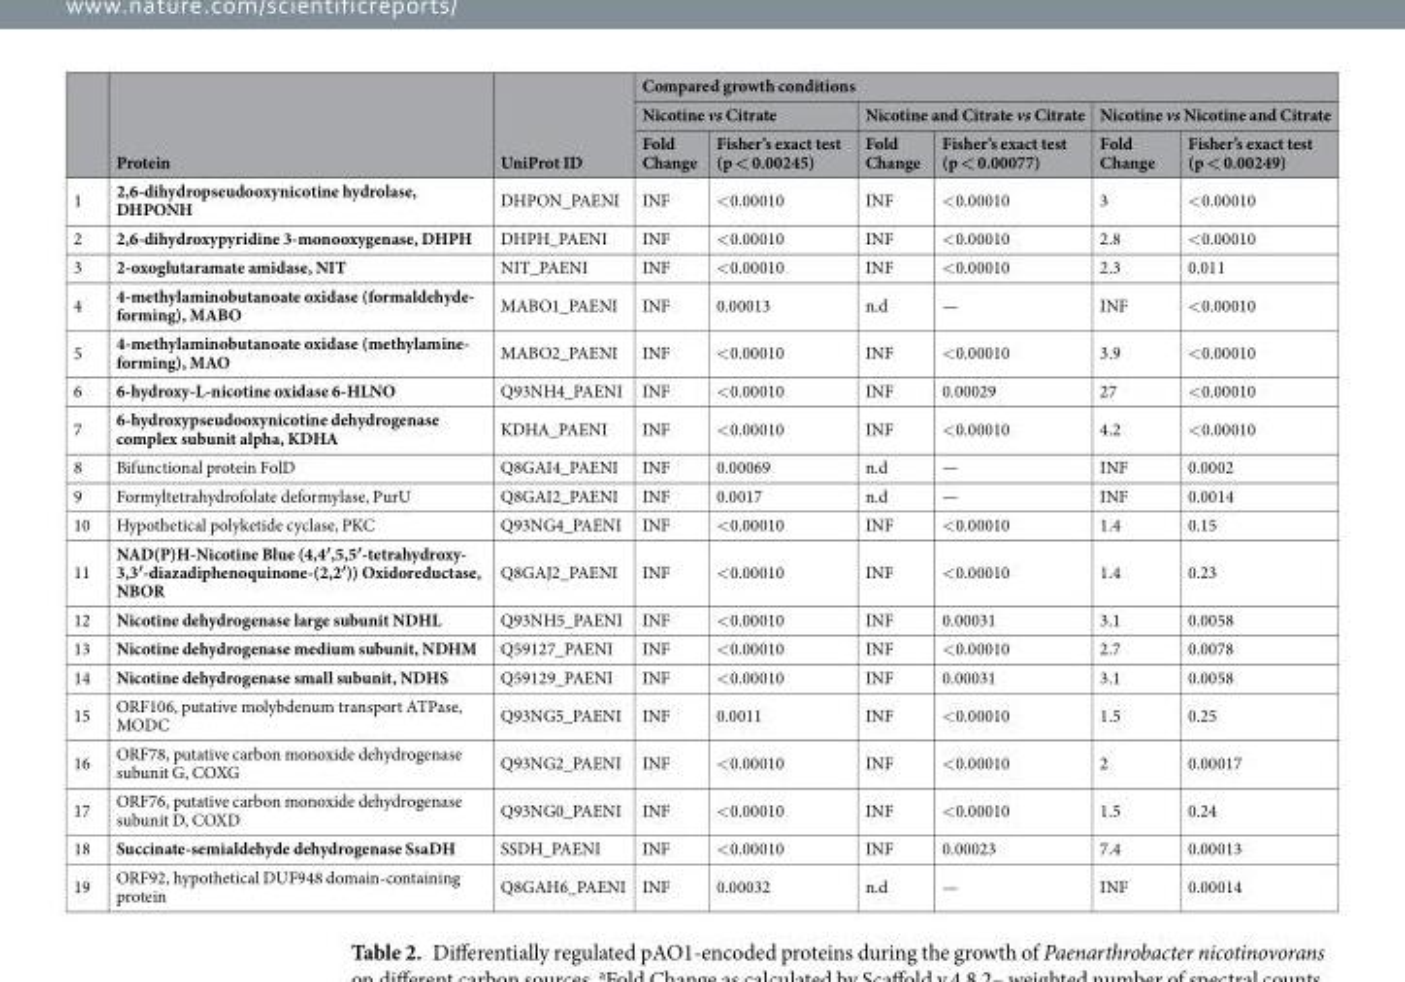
<table><thead><tr><td rowspan="3"></td><td rowspan="3">Protein</td><td rowspan="3">UniProt ID</td><td colspan="6">Compared growth conditions</td></tr><tr><td colspan="2">Nicotine vs Citrate</td><td colspan="2">Nicotine and Citrate vs Citrate</td><td colspan="2">Nicotine vs Nicotine and Citrate</td></tr><tr><td>Fold Change</td><td>Fisher’s exact test (p &lt; 0.00245)</td><td>Fold Change</td><td>Fisher’s exact test (p &lt; 0.00077)</td><td>Fold Change</td><td>Fisher’s exact test (p &lt; 0.00249)</td></tr></thead><tbody><tr><td>1</td><td>2,6-dihydropseudooxynicotine hydrolase, DHPONH</td><td>DHPON_PAENI</td><td>INF</td><td>&lt;0.00010</td><td>INF</td><td>&lt;0.00010</td><td>3</td><td>&lt;0.00010</td></tr><tr><td>2</td><td>2,6-dihydroxypyridine 3-monooxygenase, DHPH</td><td>DHPH_PAENI</td><td>INF</td><td>&lt;0.00010</td><td>INF</td><td>&lt;0.00010</td><td>2.8</td><td>&lt;0.00010</td></tr><tr><td>3</td><td>2-oxoglutaramate amidase, NIT</td><td>NIT_PAENI</td><td>INF</td><td>&lt;0.00010</td><td>INF</td><td>&lt;0.00010</td><td>2.3</td><td>0.011</td></tr><tr><td>4</td><td>4-methylaminobutanoate oxidase (formaldehyde- forming), MABO</td><td>MABO1_PAENI</td><td>INF</td><td>0.00013</td><td>n.d</td><td>—</td><td>INF</td><td>&lt;0.00010</td></tr><tr><td>5</td><td>4-methylaminobutanoate oxidase (methylamine- forming), MAO</td><td>MABO2_PAENI</td><td>INF</td><td>&lt;0.00010</td><td>INF</td><td>&lt;0.00010</td><td>3.9</td><td>&lt;0.00010</td></tr><tr><td>6</td><td>6-hydroxy-L-nicotine oxidase 6-HLNO</td><td>Q93NH4_PAENI</td><td>INF</td><td>&lt;0.00010</td><td>INF</td><td>0.00029</td><td>27</td><td>&lt;0.00010</td></tr><tr><td>7</td><td>6-hydroxypseudooxynicotine dehydrogenase complex subunit alpha, KDHA</td><td>KDHA_PAENI</td><td>INF</td><td>&lt;0.00010</td><td>INF</td><td>&lt;0.00010</td><td>4.2</td><td>&lt;0.00010</td></tr><tr><td>8</td><td>Bifunctional protein FolD</td><td>Q8GAI4_PAENI</td><td>INF</td><td>0.00069</td><td>n.d</td><td>—</td><td>INF</td><td>0.0002</td></tr><tr><td>9</td><td>Formyltetrahydrofolate deformylase, PurU</td><td>Q8GAI2_PAENI</td><td>INF</td><td>0.0017</td><td>n.d</td><td>—</td><td>INF</td><td>0.0014</td></tr><tr><td>10</td><td>Hypothetical polyketide cyclase, PKC</td><td>Q93NG4_PAENI</td><td>INF</td><td>&lt;0.00010</td><td>INF</td><td>&lt;0.00010</td><td>1.4</td><td>0.15</td></tr><tr><td>11</td><td>NAD(P)H-Nicotine Blue (4,4′,5,5′-tetrahydroxy- 3,3′-diazadiphenoquinone-(2,2′)) Oxidoreductase, NBOR</td><td>Q8GAJ2_PAENI</td><td>INF</td><td>&lt;0.00010</td><td>INF</td><td>&lt;0.00010</td><td>1.4</td><td>0.23</td></tr><tr><td>12</td><td>Nicotine dehydrogenase large subunit NDHL</td><td>Q93NH5_PAENI</td><td>INF</td><td>&lt;0.00010</td><td>INF</td><td>0.00031</td><td>3.1</td><td>0.0058</td></tr><tr><td>13</td><td>Nicotine dehydrogenase medium subunit, NDHM</td><td>Q59127_PAENI</td><td>INF</td><td>&lt;0.00010</td><td>INF</td><td>&lt;0.00010</td><td>2.7</td><td>0.0078</td></tr><tr><td>14</td><td>Nicotine dehydrogenase small subunit, NDHS</td><td>Q59129_PAENI</td><td>INF</td><td>&lt;0.00010</td><td>INF</td><td>0.00031</td><td>3.1</td><td>0.0058</td></tr><tr><td>15</td><td>ORF106, putative molybdenum transport ATPase, MODC</td><td>Q93NG5_PAENI</td><td>INF</td><td>0.0011</td><td>INF</td><td>&lt;0.00010</td><td>1.5</td><td>0.25</td></tr><tr><td>16</td><td>ORF78, putative carbon monoxide dehydrogenase subunit G, COXG</td><td>Q93NG2_PAENI</td><td>INF</td><td>&lt;0.00010</td><td>INF</td><td>&lt;0.00010</td><td>2</td><td>0.00017</td></tr><tr><td>17</td><td>ORF76, putative carbon monoxide dehydrogenase subunit D, COXD</td><td>Q93NG0_PAENI</td><td>INF</td><td>&lt;0.00010</td><td>INF</td><td>&lt;0.00010</td><td>1.5</td><td>0.24</td></tr><tr><td>18</td><td>Succinate-semialdehyde dehydrogenase SsaDH</td><td>SSDH_PAENI</td><td>INF</td><td>&lt;0.00010</td><td>INF</td><td>0.00023</td><td>7.4</td><td>0.00013</td></tr><tr><td>19</td><td>ORF92, hypothetical DUF948 domain-containing protein</td><td>Q8GAH6_PAENI</td><td>INF</td><td>0.00032</td><td>n.d</td><td>—</td><td>INF</td><td>0.00014</td></tr></tbody></table>